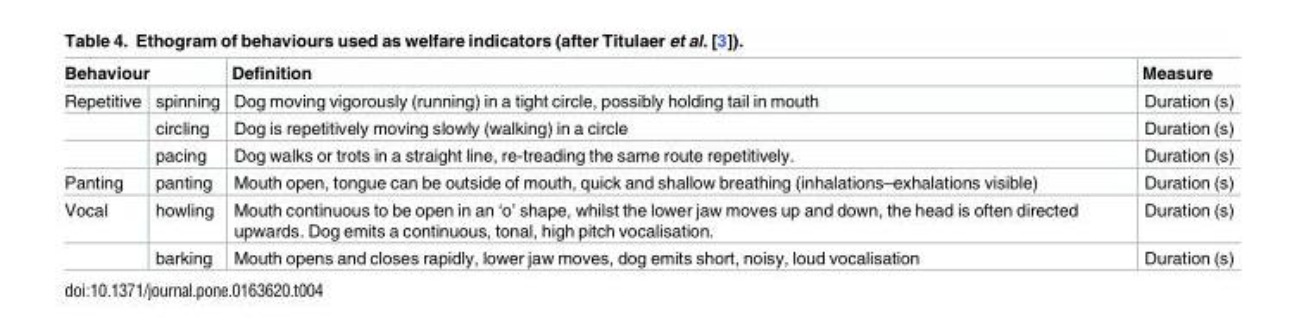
<table><thead><tr><td colspan="2">Behaviour</td><td rowspan="2">Definition Dog moving vigorously (running) in a tight circle, possibly holding tail in mouth</td><td rowspan="2">Measure Duration (s)</td></tr><tr><td>Repetitive</td><td>spinning</td></tr></thead><tbody><tr><td></td><td>circling</td><td>Dog is repetitively moving slowly (walking) in a circle</td><td>Duration (s)</td></tr><tr><td></td><td>pacing</td><td>Dog walks or trots in a straight line, re-treading the same route repetitively.</td><td>Duration (s)</td></tr><tr><td>Panting</td><td>panting</td><td>Mouth open, tongue can be outside of mouth, quick and shallow breathing (inhalations–exhalations visible)</td><td>Duration (s)</td></tr><tr><td rowspan="2">Vocal</td><td>howling</td><td>Mouth continuous to be open in an ‘o’ shape, whilst the lower jaw moves up and down, the head is often directed upwards. Dog emits a continuous, tonal, high pitch vocalisation.</td><td>Duration (s)</td></tr><tr><td>barking</td><td>Mouth opens and closes rapidly, lower jaw moves, dog emits short, noisy, loud vocalisation</td><td>Duration (s)</td></tr></tbody></table>